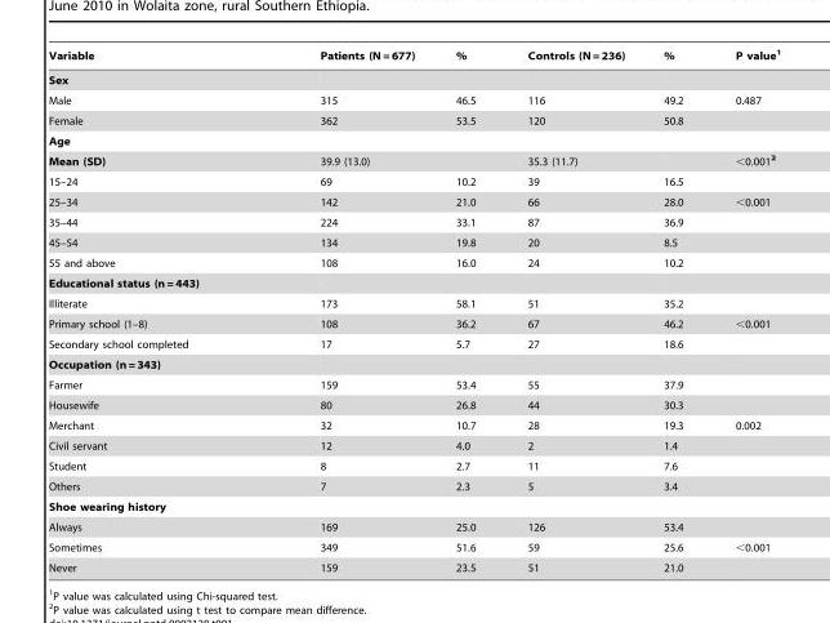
<table><thead><tr><td>Variable</td><td>Patients (N = 677)</td><td>%</td><td>Controls (N = 236)</td><td>%</td><td>P value<sup>1</sup></td></tr></thead><tbody><tr><td colspan="6">Sex</td></tr><tr><td>Male</td><td>315</td><td>46.5</td><td>116</td><td>49.2</td><td>0.487</td></tr><tr><td>Female</td><td>362</td><td>53.5</td><td>120</td><td>50.8</td><td></td></tr><tr><td colspan="6">Age</td></tr><tr><td>Mean (SD)</td><td>39.9 (13.0)</td><td></td><td>35.3 (11.7)</td><td></td><td>&lt;0.001<sup>2</sup></td></tr><tr><td>15–24</td><td>69</td><td>10.2</td><td>39</td><td>16.5</td><td></td></tr><tr><td>25–34</td><td>142</td><td>21.0</td><td>66</td><td>28.0</td><td>&lt;0.001</td></tr><tr><td>35–44</td><td>224</td><td>33.1</td><td>87</td><td>36.9</td><td></td></tr><tr><td>45–54</td><td>134</td><td>19.8</td><td>20</td><td>8.5</td><td></td></tr><tr><td>55 and above</td><td>108</td><td>16.0</td><td>24</td><td>10.2</td><td></td></tr><tr><td colspan="6">Educational status (n = 443)</td></tr><tr><td>Illiterate</td><td>173</td><td>58.1</td><td>51</td><td>35.2</td><td></td></tr><tr><td>Primary school (1–8)</td><td>108</td><td>36.2</td><td>67</td><td>46.2</td><td>&lt;0.001</td></tr><tr><td>Secondary school completed</td><td>17</td><td>5.7</td><td>27</td><td>18.6</td><td></td></tr><tr><td colspan="6">Occupation (n = 343)</td></tr><tr><td>Farmer</td><td>159</td><td>53.4</td><td>55</td><td>37.9</td><td></td></tr><tr><td>Housewife</td><td>80</td><td>26.8</td><td>44</td><td>30.3</td><td></td></tr><tr><td>Merchant</td><td>32</td><td>10.7</td><td>28</td><td>19.3</td><td>0.002</td></tr><tr><td>Civil servant</td><td>12</td><td>4.0</td><td>2</td><td>1.4</td><td></td></tr><tr><td>Student</td><td>8</td><td>2.7</td><td>11</td><td>7.6</td><td></td></tr><tr><td>Others</td><td>7</td><td>2.3</td><td>5</td><td>3.4</td><td></td></tr><tr><td colspan="6">Shoe wearing history</td></tr><tr><td>Always</td><td>169</td><td>25.0</td><td>126</td><td>53.4</td><td></td></tr><tr><td>Sometimes</td><td>349</td><td>51.6</td><td>59</td><td>25.6</td><td>&lt;0.001</td></tr><tr><td>Never</td><td>159</td><td>23.5</td><td>51</td><td>21.0</td><td></td></tr></tbody></table>